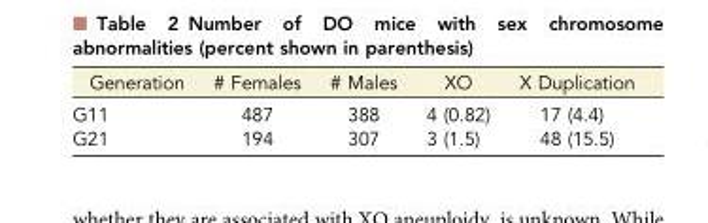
<table><thead><tr><td>Generation</td><td># Females</td><td># Males</td><td>XO</td><td>X Duplication</td></tr></thead><tbody><tr><td>G11</td><td>487</td><td>388</td><td>4 (0.82)</td><td>17 (4.4)</td></tr><tr><td>G21</td><td>194</td><td>307</td><td>3 (1.5)</td><td>48 (15.5)</td></tr></tbody></table>